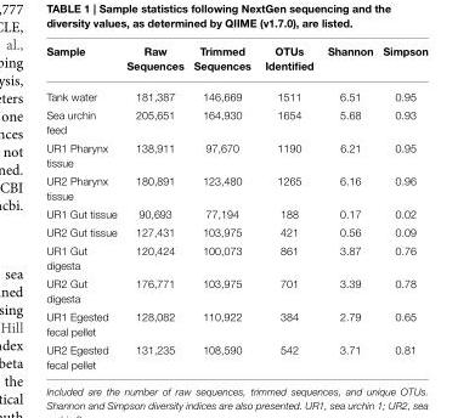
<table><thead><tr><td>Sample</td><td>Raw Sequences</td><td>Trimmed Sequences</td><td>OTUs Identified</td><td>Shannon</td><td>Simpson</td></tr></thead><tbody><tr><td>Tank water</td><td>181,387</td><td>146,669</td><td>1511</td><td>6.51</td><td>0.95</td></tr><tr><td>Sea urchin feed</td><td>205,651</td><td>164,930</td><td>1654</td><td>5.68</td><td>0.93</td></tr><tr><td>UR1 Pharynx tissue</td><td>138,911</td><td>97,670</td><td>1190</td><td>6.21</td><td>0.95</td></tr><tr><td>UR2 Pharynx tissue</td><td>180,891</td><td>123,480</td><td>1265</td><td>6.16</td><td>0.96</td></tr><tr><td>UR1 Gut tissue</td><td>90,693</td><td>77,194</td><td>188</td><td>0.17</td><td>0.02</td></tr><tr><td>UR2 Gut tissue</td><td>127,431</td><td>103,975</td><td>421</td><td>0.56</td><td>0.09</td></tr><tr><td>UR1 Gut digesta</td><td>120,424</td><td>100,073</td><td>861</td><td>3.87</td><td>0.76</td></tr><tr><td>UR2 Gut digesta</td><td>176,771</td><td>103,975</td><td>701</td><td>3.39</td><td>0.78</td></tr><tr><td>UR1 Egested fecal pellet</td><td>128,082</td><td>110,922</td><td>384</td><td>2.79</td><td>0.65</td></tr><tr><td>UR2 Egested fecal pellet</td><td>131,235</td><td>108,590</td><td>542</td><td>3.71</td><td>0.81</td></tr></tbody></table>